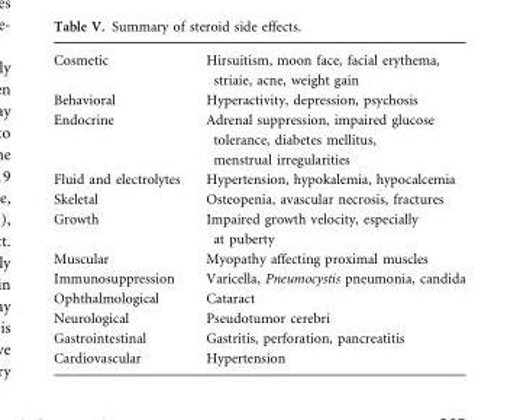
<table><tbody><tr><td>Cosmetic</td><td>Hirsuitism, moon face, facial erythema, striaie, acne, weight gain</td></tr><tr><td>Behavioral</td><td>Hyperactivity, depression, psychosis</td></tr><tr><td>Endocrine</td><td>Adrenal suppression, impaired glucose tolerance, diabetes mellitus, menstrual irregularities</td></tr><tr><td>Fluid and electrolytes</td><td>Hypertension, hypokalemia, hypocalcemia</td></tr><tr><td>Skeletal</td><td>Osteopenia, avascular necrosis, fractures</td></tr><tr><td>Growth</td><td>Impaired growth velocity, especially at puberty</td></tr><tr><td>Muscular</td><td>Myopathy affecting proximal muscles</td></tr><tr><td>Immunosuppression</td><td>Varicella, Pneumocystis pneumonia, candida</td></tr><tr><td>Ophthalmological</td><td>Cataract</td></tr><tr><td>Neurological</td><td>Pseudotumor cerebri</td></tr><tr><td>Gastrointestinal</td><td>Gastritis, perforation, pancreatitis</td></tr><tr><td>Cardiovascular</td><td>Hypertension</td></tr></tbody></table>